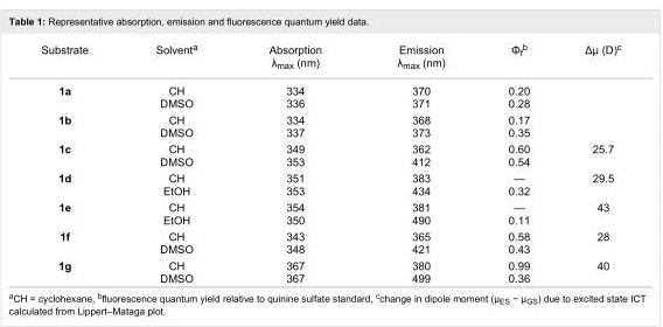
<table><tbody><tr><td>Substrate</td><td>Solvent<sup>a</sup></td><td>Absorption λ<sub>max</sub> (nm)</td><td>Emission λ<sub>max</sub> (nm)</td><td>Φ<sub>f</sub><sup>b</sup></td><td>Δμ (D)<sup>c</sup></td></tr><tr><td>1a</td><td>CH DMSO</td><td>334 336</td><td>370 371</td><td>0.20 0.28</td><td></td></tr><tr><td>1b</td><td>CH DMSO</td><td>334 337</td><td>368 373</td><td>0.17 0.35</td><td></td></tr><tr><td>1c</td><td>CH DMSO</td><td>349 353</td><td>362 412</td><td>0.60 0.54</td><td>25.7</td></tr><tr><td>1d</td><td>CH EtOH</td><td>351 353</td><td>383 434</td><td>— 0.32</td><td>29.5</td></tr><tr><td>1e</td><td>CH EtOH</td><td>354 350</td><td>381 490</td><td>— 0.11</td><td>43</td></tr><tr><td>1f</td><td>CH DMSO</td><td>343 348</td><td>365 421</td><td>0.58 0.43</td><td>28</td></tr><tr><td>1g</td><td>CH DMSO</td><td>367 367</td><td>380 499</td><td>0.99 0.36</td><td>40</td></tr></tbody></table>